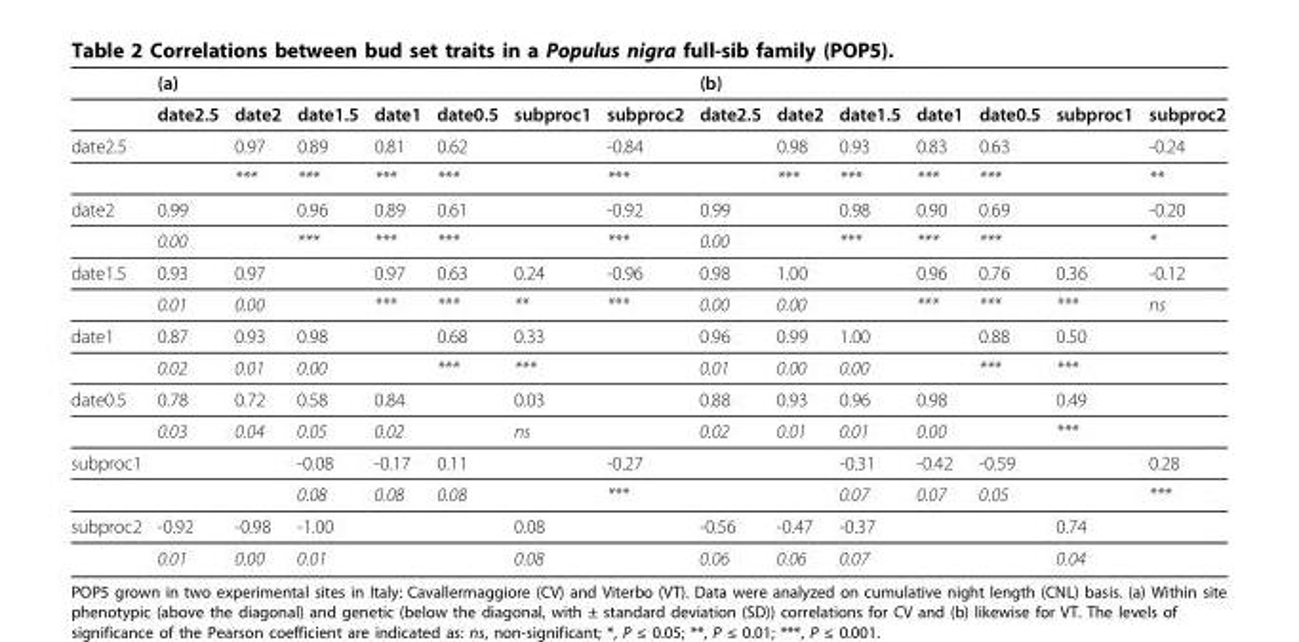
<table><thead><tr><td rowspan="2"></td><td colspan="2">(a)</td><td rowspan="2">date1.5</td><td rowspan="2">date1</td><td rowspan="2">date0.5</td><td rowspan="2">subproc1</td><td rowspan="2">subproc2</td><td rowspan="2">(b) date2.5</td><td rowspan="2">date2</td><td rowspan="2">date1.5</td><td rowspan="2">date1</td><td rowspan="2">date0.5</td><td rowspan="2">subproc1</td><td rowspan="2">subproc2</td></tr><tr><td>date2.5</td><td>date2</td></tr></thead><tbody><tr><td rowspan="2">date2.5</td><td></td><td>0.97</td><td>0.89</td><td>0.81</td><td>0.62</td><td></td><td>-0.84</td><td></td><td>0.98</td><td>0.93</td><td>0.83</td><td>0.63</td><td></td><td>-0.24</td></tr><tr><td></td><td>***</td><td>***</td><td>***</td><td>***</td><td></td><td>***</td><td></td><td>***</td><td>***</td><td>***</td><td>***</td><td></td><td>**</td></tr><tr><td rowspan="2">date2</td><td>0.99</td><td></td><td>0.96</td><td>0.89</td><td>0.61</td><td></td><td>-0.92</td><td>0.99</td><td></td><td>0.98</td><td>0.90</td><td>0.69</td><td></td><td>-0.20</td></tr><tr><td>0.00</td><td></td><td>***</td><td>***</td><td>***</td><td></td><td>***</td><td>0.00</td><td></td><td>***</td><td>***</td><td>***</td><td></td><td>*</td></tr><tr><td rowspan="2">date1.5</td><td>0.93</td><td>0.97</td><td></td><td>0.97</td><td>0.63</td><td>0.24</td><td>-0.96</td><td>0.98</td><td>1.00</td><td></td><td>0.96</td><td>0.76</td><td>0.36</td><td>-0.12</td></tr><tr><td>0.01</td><td>0.00</td><td></td><td>***</td><td>***</td><td>**</td><td>***</td><td>0.00</td><td>0.00</td><td></td><td>***</td><td>***</td><td>***</td><td>ns</td></tr><tr><td rowspan="2">date1</td><td>0.87</td><td>0.93</td><td>0.98</td><td></td><td>0.68</td><td>0.33</td><td></td><td>0.96</td><td>0.99</td><td>1.00</td><td></td><td>0.88</td><td>0.50</td><td></td></tr><tr><td>0.02</td><td>0.01</td><td>0.00</td><td></td><td>***</td><td>***</td><td></td><td>0.01</td><td>0.00</td><td>0.00</td><td></td><td>***</td><td>***</td><td></td></tr><tr><td rowspan="2">date0.5</td><td>0.78</td><td>0.72</td><td>0.58</td><td>0.84</td><td></td><td>0.03</td><td></td><td>0.88</td><td>0.93</td><td>0.96</td><td>0.98</td><td></td><td>0.49</td><td></td></tr><tr><td>0.03</td><td>0.04</td><td>0.05</td><td>0.02</td><td></td><td>ns</td><td></td><td>0.02</td><td>0.01</td><td>0.01</td><td>0.00</td><td></td><td>***</td><td></td></tr><tr><td rowspan="2">subproc1</td><td></td><td></td><td>-0.08</td><td>-0.17</td><td>0.11</td><td></td><td>-0.27</td><td></td><td></td><td>-0.31</td><td>-0.42</td><td>-0.59</td><td></td><td>0.28</td></tr><tr><td></td><td></td><td>0.08</td><td>0.08</td><td>0.08</td><td></td><td>***</td><td></td><td></td><td>0.07</td><td>0.07</td><td>0.05</td><td></td><td>***</td></tr><tr><td rowspan="2">subproc2</td><td>-0.92</td><td>-0.98</td><td>-1.00</td><td></td><td></td><td>0.08</td><td></td><td>-0.56</td><td>-0.47</td><td>-0.37</td><td></td><td></td><td>0.74</td><td></td></tr><tr><td>0.01</td><td>0.00</td><td>0.01</td><td></td><td></td><td>0.08</td><td></td><td>0.06</td><td>0.06</td><td>0.07</td><td></td><td></td><td>0.04</td><td></td></tr></tbody></table>